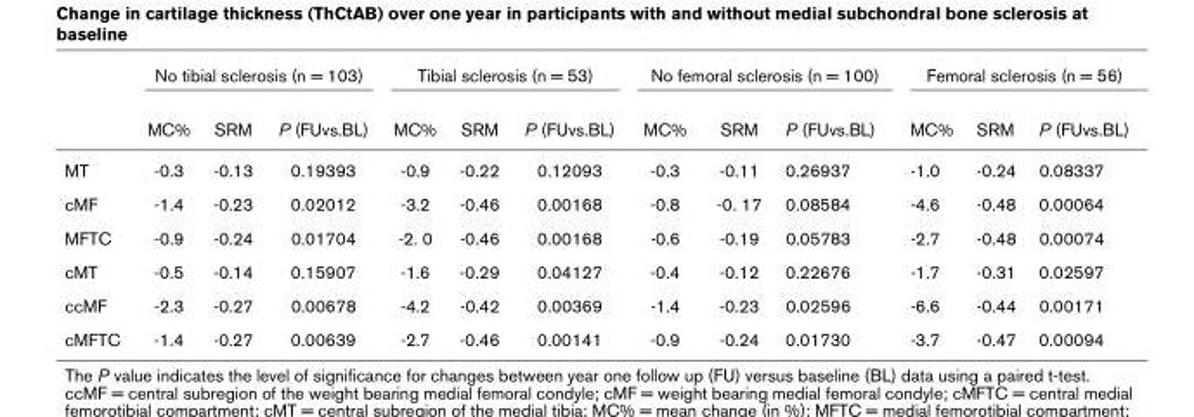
<table><thead><tr><td rowspan="2"></td><td colspan="3">No tibial sclerosis (n = 103)</td><td colspan="3">Tibial sclerosis (n = 53)</td><td colspan="3">No femoral sclerosis (n = 100)</td><td colspan="3">Femoral sclerosis (n = 56)</td></tr><tr><td>MC%</td><td>SRM</td><td>P (FUvs.BL)</td><td>MC%</td><td>SRM</td><td>P (FUvs.BL)</td><td>MC%</td><td>SRM</td><td>P (FUvs.BL)</td><td>MC%</td><td>SRM</td><td>P (FUvs.BL)</td></tr></thead><tbody><tr><td>MT</td><td>-0.3</td><td>-0.13</td><td>0.19393</td><td>-0.9</td><td>-0.22</td><td>0.12093</td><td>-0.3</td><td>-0.11</td><td>0.26937</td><td>-1.0</td><td>-0.24</td><td>0.08337</td></tr><tr><td>cMF</td><td>-1.4</td><td>-0.23</td><td>0.02012</td><td>-3.2</td><td>-0.46</td><td>0.00168</td><td>-0.8</td><td>-0. 17</td><td>0.08584</td><td>-4.6</td><td>-0.48</td><td>0.00064</td></tr><tr><td>MFTC</td><td>-0.9</td><td>-0.24</td><td>0.01704</td><td>-2. 0</td><td>-0.46</td><td>0.00168</td><td>-0.6</td><td>-0.19</td><td>0.05783</td><td>-2.7</td><td>-0.48</td><td>0.00074</td></tr><tr><td>cMT</td><td>-0.5</td><td>-0.14</td><td>0.15907</td><td>-1.6</td><td>-0.29</td><td>0.04127</td><td>-0.4</td><td>-0.12</td><td>0.22676</td><td>-1.7</td><td>-0.31</td><td>0.02597</td></tr><tr><td>ccMF</td><td>-2.3</td><td>-0.27</td><td>0.00678</td><td>-4.2</td><td>-0.42</td><td>0.00369</td><td>-1.4</td><td>-0.23</td><td>0.02596</td><td>-6.6</td><td>-0.44</td><td>0.00171</td></tr><tr><td>cMFTC</td><td>-1.4</td><td>-0.27</td><td>0.00639</td><td>-2.7</td><td>-0.46</td><td>0.00141</td><td>-0.9</td><td>-0.24</td><td>0.01730</td><td>-3.7</td><td>-0.47</td><td>0.00094</td></tr></tbody></table>